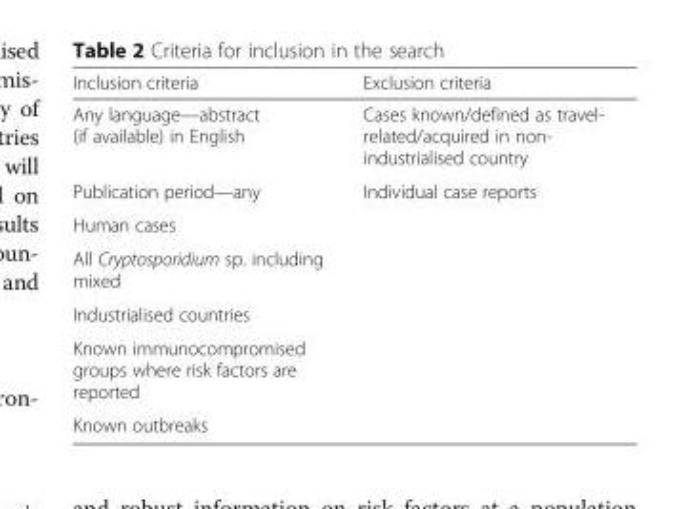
<table><thead><tr><td>Inclusion criteria</td><td>Exclusion criteria</td></tr></thead><tbody><tr><td>Any language—abstract (if available) in English</td><td>Cases known/defined as travel- related/acquired in non- industrialised country</td></tr><tr><td>Publication period—any</td><td>Individual case reports</td></tr><tr><td colspan="2">Human cases</td></tr><tr><td colspan="2">All Cryptosporidium sp. including mixed</td></tr><tr><td colspan="2">Industrialised countries</td></tr><tr><td colspan="2">Known immunocompromised groups where risk factors are reported</td></tr><tr><td>Known outbreaks</td><td></td></tr></tbody></table>